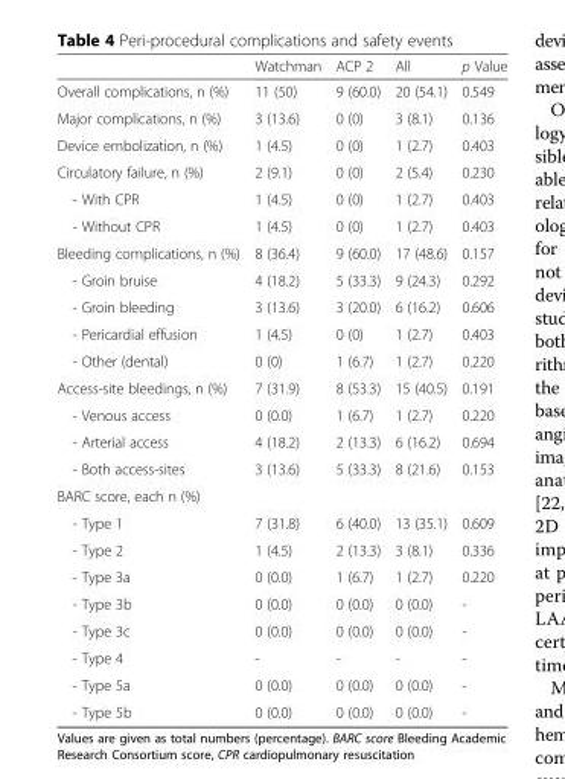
<table><thead><tr><td></td><td>Watchman</td><td>ACP 2</td><td>All</td><td>p Value</td></tr></thead><tbody><tr><td>Overall complications, n (%)</td><td>11 (50)</td><td>9 (60.0)</td><td>20 (54.1)</td><td>0.549</td></tr><tr><td>Major complications, n (%)</td><td>3 (13.6)</td><td>0 (0)</td><td>3 (8.1)</td><td>0.136</td></tr><tr><td>Device embolization, n (%)</td><td>1 (4.5)</td><td>0 (0)</td><td>1 (2.7)</td><td>0.403</td></tr><tr><td>Circulatory failure, n (%)</td><td>2 (9.1)</td><td>0 (0)</td><td>2 (5.4)</td><td>0.230</td></tr><tr><td>- With CPR</td><td>1 (4.5)</td><td>0 (0)</td><td>1 (2.7)</td><td>0.403</td></tr><tr><td>- Without CPR</td><td>1 (4.5)</td><td>0 (0)</td><td>1 (2.7)</td><td>0.403</td></tr><tr><td>Bleeding complications, n (%)</td><td>8 (36.4)</td><td>9 (60.0)</td><td>17 (48.6)</td><td>0.157</td></tr><tr><td>- Groin bruise</td><td>4 (18.2)</td><td>5 (33.3)</td><td>9 (24.3)</td><td>0.292</td></tr><tr><td>- Groin bleeding</td><td>3 (13.6)</td><td>3 (20.0)</td><td>6 (16.2)</td><td>0.606</td></tr><tr><td>- Pericardial effusion</td><td>1 (4.5)</td><td>0 (0)</td><td>1 (2.7)</td><td>0.403</td></tr><tr><td>- Other (dental)</td><td>0 (0)</td><td>1 (6.7)</td><td>1 (2.7)</td><td>0.220</td></tr><tr><td>Access-site bleedings, n (%)</td><td>7 (31.9)</td><td>8 (53.3)</td><td>15 (40.5)</td><td>0.191</td></tr><tr><td>- Venous access</td><td>0 (0.0)</td><td>1 (6.7)</td><td>1 (2.7)</td><td>0.220</td></tr><tr><td>- Arterial access</td><td>4 (18.2)</td><td>2 (13.3)</td><td>6 (16.2)</td><td>0.694</td></tr><tr><td>- Both access-sites</td><td>3 (13.6)</td><td>5 (33.3)</td><td>8 (21.6)</td><td>0.153</td></tr><tr><td colspan="5">BARC score, each n (%)</td></tr><tr><td>- Type 1</td><td>7 (31.8)</td><td>6 (40.0)</td><td>13 (35.1)</td><td>0.609</td></tr><tr><td>- Type 2</td><td>1 (4.5)</td><td>2 (13.3)</td><td>3 (8.1)</td><td>0.336</td></tr><tr><td>- Type 3a</td><td>0 (0.0)</td><td>1 (6.7)</td><td>1 (2.7)</td><td>0.220</td></tr><tr><td>- Type 3b</td><td>0 (0.0)</td><td>0 (0.0)</td><td>0 (0.0)</td><td>-</td></tr><tr><td>- Type 3c</td><td>0 (0.0)</td><td>0 (0.0)</td><td>0 (0.0)</td><td>-</td></tr><tr><td>- Type 4</td><td>-</td><td>-</td><td>-</td><td>-</td></tr><tr><td>- Type 5a</td><td>0 (0.0)</td><td>0 (0.0)</td><td>0 (0.0)</td><td>-</td></tr><tr><td>- Type 5b</td><td>0 (0.0)</td><td>0 (0.0)</td><td>0 (0.0)</td><td>-</td></tr></tbody></table>